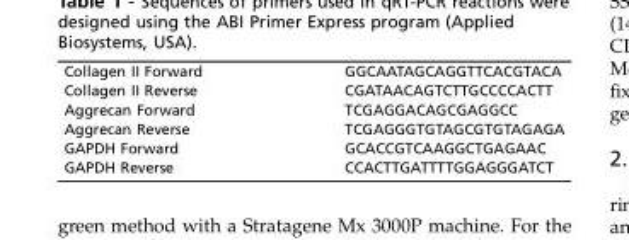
<table><tbody><tr><td>Collagen II Forward</td><td>GGCAATAGCAGGTTCACGTACA</td></tr><tr><td>Collagen II Reverse</td><td>CGATAACAGTCTTGCCCCACTT</td></tr><tr><td>Aggrecan Forward</td><td>TCGAGGACAGCGAGGCC</td></tr><tr><td>Aggrecan Reverse</td><td>TCGAGGGTGTAGCGTGTAGAGA</td></tr><tr><td>GAPDH Forward</td><td>GCACCGTCAAGGCTGAGAAC</td></tr><tr><td>GAPDH Reverse</td><td>CCACTTGATTTTGGAGGGATCT</td></tr></tbody></table>